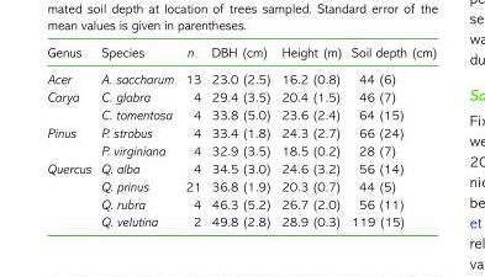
<table><thead><tr><td>Genus</td><td>Species</td><td>n</td><td>DBH (cm)</td><td>Height (m)</td><td>Soil depth (cm)</td></tr></thead><tbody><tr><td>Acer</td><td>A. saccharum</td><td>13</td><td>23.0 (2.5)</td><td>16.2 (0.8)</td><td>44 (6)</td></tr><tr><td rowspan="2">Carya</td><td>C. glabra</td><td>4</td><td>29.4 (3.5)</td><td>20.4 (1.5)</td><td>46 (7)</td></tr><tr><td>C. tomentosa</td><td>4</td><td>33.8 (5.0)</td><td>23.6 (2.4)</td><td>64 (15)</td></tr><tr><td rowspan="2">Pinus</td><td>P. strobus</td><td>4</td><td>33.4 (1.8)</td><td>24.3 (2.7)</td><td>66 (24)</td></tr><tr><td>P. virginiana</td><td>4</td><td>32.9 (3.5)</td><td>18.5 (0.2)</td><td>28 (7)</td></tr><tr><td rowspan="4">Quercus</td><td>Q. alba</td><td>4</td><td>34.5 (3.0)</td><td>24.6 (3.2)</td><td>56 (14)</td></tr><tr><td>Q. prinus</td><td>21</td><td>36.8 (1.9)</td><td>20.3 (0.7)</td><td>44 (5)</td></tr><tr><td>Q. rubra</td><td>4</td><td>46.3 (5.2)</td><td>26.7 (2.0)</td><td>56 (11)</td></tr><tr><td>Q. velutina</td><td>2</td><td>49.8 (2.8)</td><td>28.9 (0.3)</td><td>119 (15)</td></tr></tbody></table>